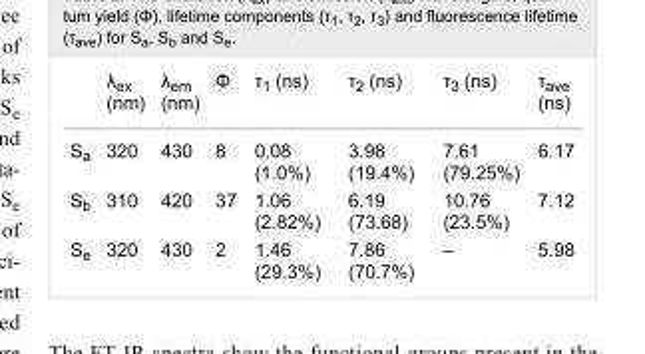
<table><thead><tr><td></td><td>λ<sub>ex</sub> (nm)</td><td>λ<sub>em</sub> (nm)</td><td>Φ</td><td>τ<sub>1</sub> (ns)</td><td>τ<sub>2</sub> (ns)</td><td>τ<sub>3</sub> (ns)</td><td>τ<sub>ave</sub> (ns)</td></tr></thead><tbody><tr><td>S<sub>a</sub></td><td>320</td><td>430</td><td>8</td><td>0.08 (1.0%)</td><td>3.98 (19.4%)</td><td>7.61 (79.25%)</td><td>6.17</td></tr><tr><td>S<sub>b</sub></td><td>310</td><td>420</td><td>37</td><td>1.06 (2.82%)</td><td>6.19 (73.68)</td><td>10.76 (23.5%)</td><td>7.12</td></tr><tr><td>S<sub>e</sub></td><td>320</td><td>430</td><td>2</td><td>1.46 (29.3%)</td><td>7.86 (70.7%)</td><td>–</td><td>5.98</td></tr></tbody></table>